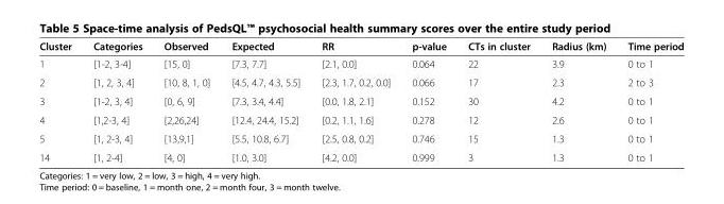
<table><thead><tr><td>Cluster</td><td>Categories</td><td>Observed</td><td>Expected</td><td>RR</td><td>p-value</td><td>CTs in cluster</td><td>Radius (km)</td><td>Time period</td></tr></thead><tbody><tr><td>1</td><td>[1-2, 3-4]</td><td>[15, 0]</td><td>[7.3, 7.7]</td><td>[2.1, 0.0]</td><td>0.064</td><td>22</td><td>3.9</td><td>0 to 1</td></tr><tr><td>2</td><td>[1, 2, 3, 4]</td><td>[10, 8, 1, 0]</td><td>[4.5, 4.7, 4.3, 5.5]</td><td>[2.3, 1.7, 0.2, 0.0]</td><td>0.066</td><td>17</td><td>2.3</td><td>2 to 3</td></tr><tr><td>3</td><td>[1-2, 3, 4]</td><td>[0, 6, 9]</td><td>[7.3, 3.4, 4.4]</td><td>[0.0, 1.8, 2.1]</td><td>0.152</td><td>30</td><td>4.2</td><td>0 to 1</td></tr><tr><td>4</td><td>[1,2-3, 4]</td><td>[2,26,24]</td><td>[12.4, 24.4, 15.2]</td><td>[0.2, 1.1, 1.6]</td><td>0.278</td><td>12</td><td>2.6</td><td>0 to 1</td></tr><tr><td>5</td><td>[1, 2-3, 4]</td><td>[13,9,1]</td><td>[5.5, 10.8, 6.7]</td><td>[2.5, 0.8, 0.2]</td><td>0.746</td><td>15</td><td>1.3</td><td>0 to 1</td></tr><tr><td>14</td><td>[1, 2-4]</td><td>[4, 0]</td><td>[1.0, 3.0]</td><td>[4.2, 0.0]</td><td>0.999</td><td>3</td><td>1.3</td><td>0 to 1</td></tr></tbody></table>